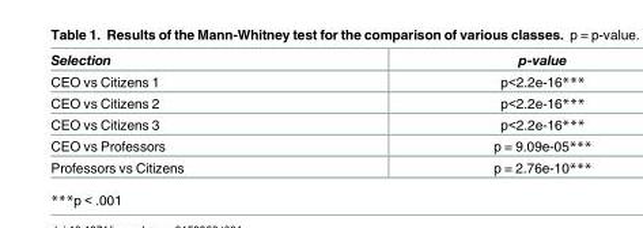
<table><thead><tr><td>Selection</td><td>p-value</td></tr></thead><tbody><tr><td>CEO vs Citizens 1</td><td>p&lt;2.2e-16***</td></tr><tr><td>CEO vs Citizens 2</td><td>p&lt;2.2e-16***</td></tr><tr><td>CEO vs Citizens 3</td><td>p&lt;2.2e-16***</td></tr><tr><td>CEO vs Professors</td><td>p = 9.09e-05***</td></tr><tr><td>Professors vs Citizens</td><td>p = 2.76e-10***</td></tr></tbody></table>